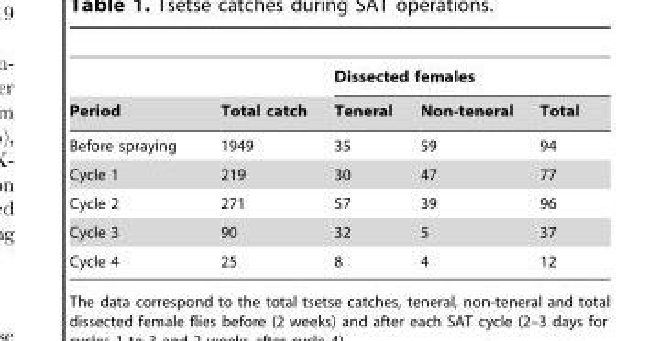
<table><thead><tr><td rowspan="2">Period</td><td rowspan="2">Total catch</td><td colspan="3">Dissected females</td></tr><tr><td>Teneral</td><td>Non-teneral</td><td>Total</td></tr></thead><tbody><tr><td>Before spraying</td><td>1949</td><td>35</td><td>59</td><td>94</td></tr><tr><td>Cycle 1</td><td>219</td><td>30</td><td>47</td><td>77</td></tr><tr><td>Cycle 2</td><td>271</td><td>57</td><td>39</td><td>96</td></tr><tr><td>Cycle 3</td><td>90</td><td>32</td><td>5</td><td>37</td></tr><tr><td>Cycle 4</td><td>25</td><td>8</td><td>4</td><td>12</td></tr></tbody></table>